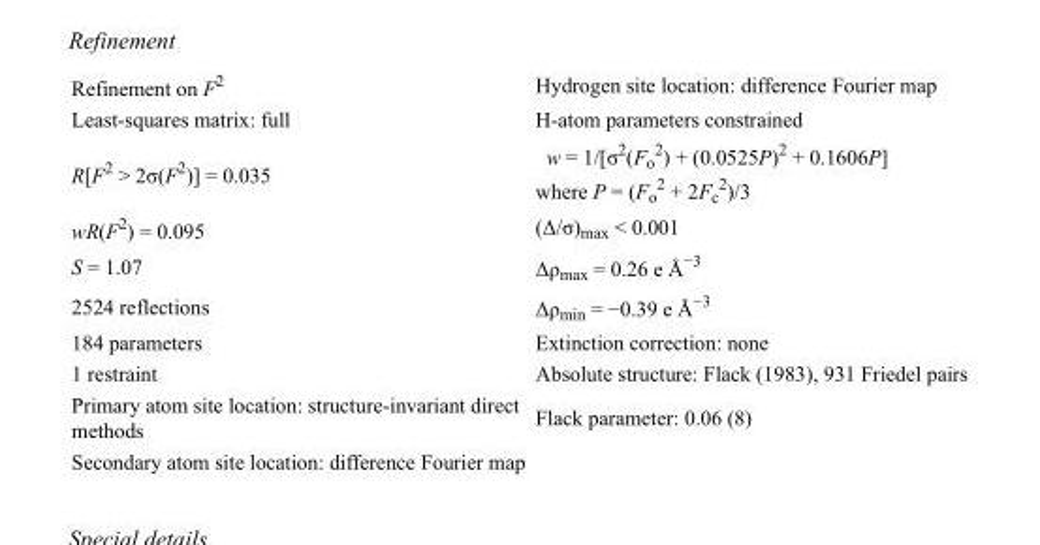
<table><tbody><tr><td>Refinement on F<sup>2</sup></td><td>Hydrogen site location: difference Fourier map</td></tr><tr><td>Least-squares matrix: full</td><td>H-atom parameters constrained</td></tr><tr><td>R[F<sup>2</sup> &gt; 2σ(F<sup>2</sup>)] = 0.035</td><td>w = 1/[σ<sup>2</sup>(F<sub>o</sub> <sup>2</sup>) + (0.0525P)<sup>2</sup> + 0.1606P] where P = (F<sub>o</sub> <sup>2</sup> + 2F<sub>c</sub> <sup>2</sup>)/3</td></tr><tr><td>wR(F<sup>2</sup>) = 0.095</td><td>(Δ/σ)<sub>max</sub> &lt; 0.001</td></tr><tr><td>S = 1.07</td><td>Δρ<sub>max</sub> = 0.26 e Å<sup>−3</sup></td></tr><tr><td>2524 reflections</td><td>Δρ<sub>min</sub> = −0.39 e Å<sup>−3</sup></td></tr><tr><td>184 parameters</td><td>Extinction correction: none</td></tr><tr><td>1 restraint</td><td>Absolute structure: Flack (1983), 931 Friedel pairs</td></tr><tr><td>Primary atom site location: structure-invariant direct methods</td><td>Flack parameter: 0.06 (8)</td></tr><tr><td>Secondary atom site location: difference Fourier map</td><td></td></tr></tbody></table>